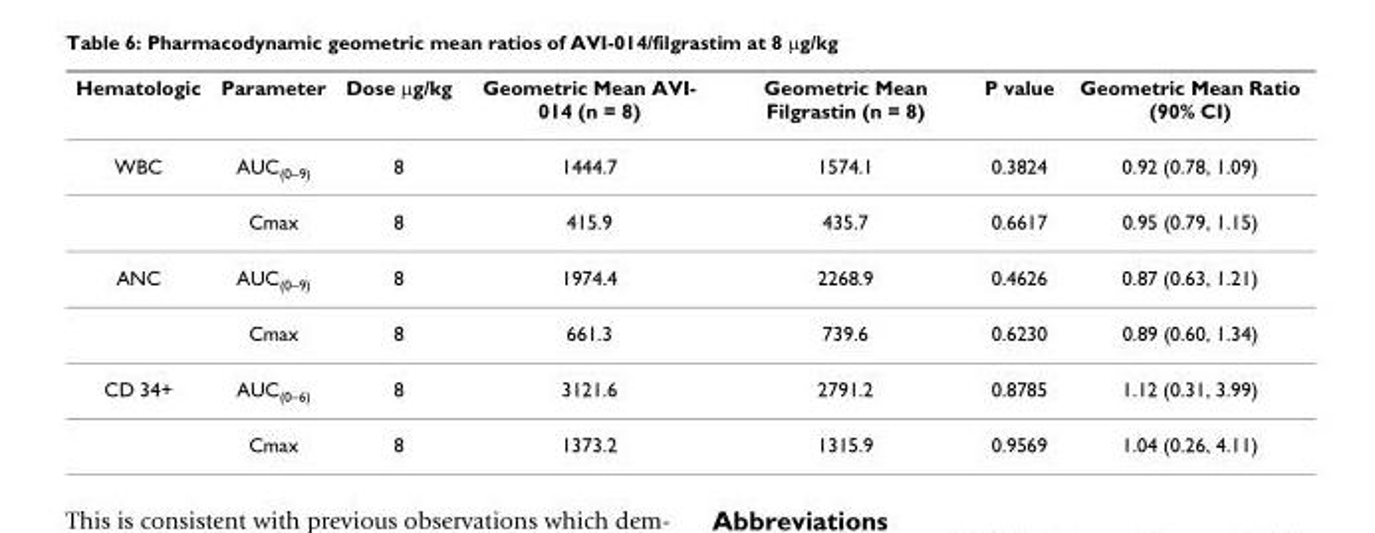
<table><thead><tr><td>Hematologic</td><td>Parameter</td><td>Dose μg/kg</td><td>Geometric Mean AVI- 014 (n = 8)</td><td>Geometric Mean Filgrastin (n = 8)</td><td>P value</td><td>Geometric Mean Ratio (90% CI)</td></tr></thead><tbody><tr><td rowspan="2">WBC</td><td>AUC<sub>(0–9)</sub></td><td>8</td><td>1444.7</td><td>1574.1</td><td>0.3824</td><td>0.92 (0.78, 1.09)</td></tr><tr><td>Cmax</td><td>8</td><td>415.9</td><td>435.7</td><td>0.6617</td><td>0.95 (0.79, 1.15)</td></tr><tr><td rowspan="2">ANC</td><td>AUC<sub>(0–9)</sub></td><td>8</td><td>1974.4</td><td>2268.9</td><td>0.4626</td><td>0.87 (0.63, 1.21)</td></tr><tr><td>Cmax</td><td>8</td><td>661.3</td><td>739.6</td><td>0.6230</td><td>0.89 (0.60, 1.34)</td></tr><tr><td rowspan="2">CD 34+</td><td>AUC<sub>(0–6)</sub></td><td>8</td><td>3121.6</td><td>2791.2</td><td>0.8785</td><td>1.12 (0.31, 3.99)</td></tr><tr><td>Cmax</td><td>8</td><td>1373.2</td><td>1315.9</td><td>0.9569</td><td>1.04 (0.26, 4.11)</td></tr></tbody></table>